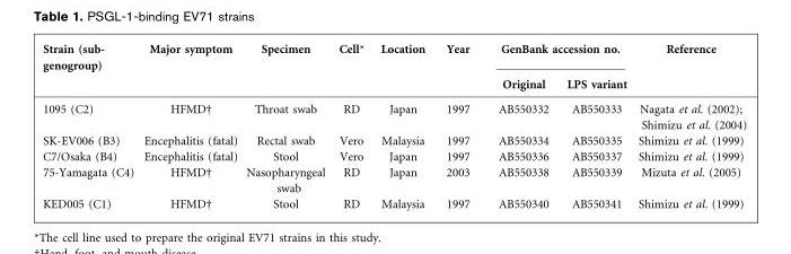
<table><thead><tr><td rowspan="2">Strain (sub- genogroup)</td><td rowspan="2">Major symptom</td><td rowspan="2">Specimen</td><td rowspan="2">Cell*</td><td rowspan="2">Location</td><td rowspan="2">Year</td><td colspan="2">GenBank accession no.</td><td rowspan="2">Reference</td></tr><tr><td>Original</td><td>LPS variant</td></tr></thead><tbody><tr><td>1095 (C2)</td><td>HFMD†</td><td>Throat swab</td><td>RD</td><td>Japan</td><td>1997</td><td>AB550332</td><td>AB550333</td><td>Nagata et al. (2002); Shimizu et al. (2004)</td></tr><tr><td>SK-EV006 (B3)</td><td>Encephalitis (fatal)</td><td>Rectal swab</td><td>Vero</td><td>Malaysia</td><td>1997</td><td>AB550334</td><td>AB550335</td><td>Shimizu et al. (1999)</td></tr><tr><td>C7/Osaka (B4)</td><td>Encephalitis (fatal)</td><td>Stool</td><td>Vero</td><td>Japan</td><td>1997</td><td>AB550336</td><td>AB550337</td><td>Shimizu et al. (1999)</td></tr><tr><td>75-Yamagata (C4)</td><td>HFMD†</td><td>Nasopharyngeal swab</td><td>RD</td><td>Japan</td><td>2003</td><td>AB550338</td><td>AB550339</td><td>Mizuta et al. (2005)</td></tr><tr><td>KED005 (C1)</td><td>HFMD†</td><td>Stool</td><td>RD</td><td>Malaysia</td><td>1997</td><td>AB550340</td><td>AB550341</td><td>Shimizu et al. (1999)</td></tr></tbody></table>